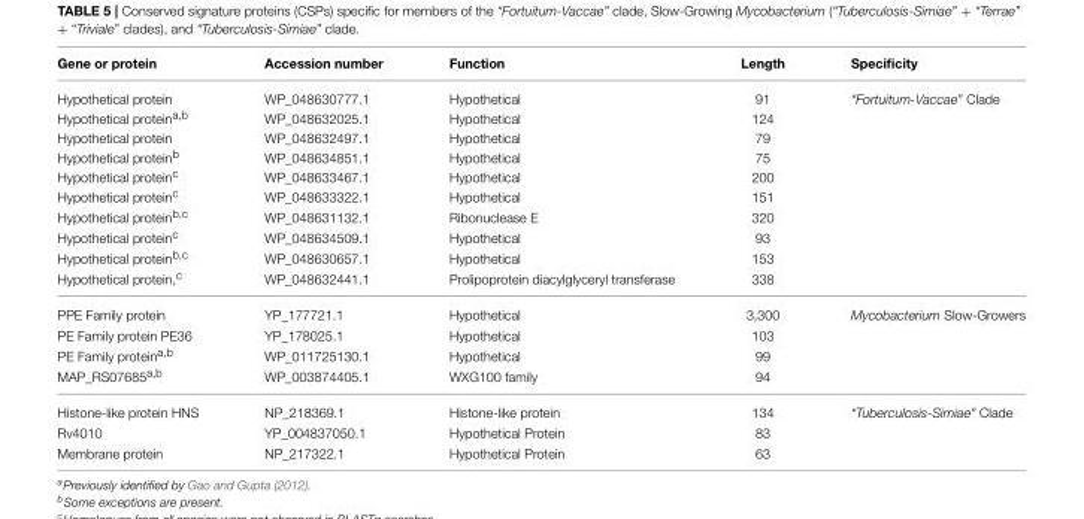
<table><thead><tr><td>Gene or protein</td><td>Accession number</td><td>Function</td><td>Length</td><td>Specificity</td></tr></thead><tbody><tr><td>Hypothetical protein</td><td>WP_048630777.1</td><td>Hypothetical</td><td>91</td><td>“Fortuitum-Vaccae” Clade</td></tr><tr><td>Hypothetical protein<sup>a,b</sup></td><td>WP_048632025.1</td><td>Hypothetical</td><td>124</td><td></td></tr><tr><td>Hypothetical protein</td><td>WP_048632497.1</td><td>Hypothetical</td><td>79</td><td></td></tr><tr><td>Hypothetical protein<sup>b</sup></td><td>WP_048634851.1</td><td>Hypothetical</td><td>75</td><td></td></tr><tr><td>Hypothetical protein<sup>c</sup></td><td>WP_048633467.1</td><td>Hypothetical</td><td>200</td><td></td></tr><tr><td>Hypothetical protein<sup>c</sup></td><td>WP_048633322.1</td><td>Hypothetical</td><td>151</td><td></td></tr><tr><td>Hypothetical protein<sup>b,c</sup></td><td>WP_048631132.1</td><td>Ribonuclease E</td><td>320</td><td></td></tr><tr><td>Hypothetical protein<sup>c</sup></td><td>WP_048634509.1</td><td>Hypothetical</td><td>93</td><td></td></tr><tr><td>Hypothetical protein<sup>b,c</sup></td><td>WP_048630657.1</td><td>Hypothetical</td><td>153</td><td></td></tr><tr><td>Hypothetical protein,<sup>c</sup></td><td>WP_048632441.1</td><td>Prolipoprotein diacylglyceryl transferase</td><td>338</td><td></td></tr><tr><td>PPE Family protein</td><td>YP_177721.1</td><td>Hypothetical</td><td>3,300</td><td>Mycobacterium Slow-Growers</td></tr><tr><td>PE Family protein PE36</td><td>YP_178025.1</td><td>Hypothetical</td><td>103</td><td></td></tr><tr><td>PE Family protein<sup>a,b</sup></td><td>WP_011725130.1</td><td>Hypothetical</td><td>99</td><td></td></tr><tr><td>MAP_RS07685<sup>a,b</sup></td><td>WP_003874405.1</td><td>WXG100 family</td><td>94</td><td></td></tr><tr><td>Histone-like protein HNS</td><td>NP_218369.1</td><td>Histone-like protein</td><td>134</td><td>“Tuberculosis-Simiae” Clade</td></tr><tr><td>Rv4010</td><td>YP_004837050.1</td><td>Hypothetical Protein</td><td>83</td><td></td></tr><tr><td>Membrane protein</td><td>NP_217322.1</td><td>Hypothetical Protein</td><td>63</td><td></td></tr></tbody></table>